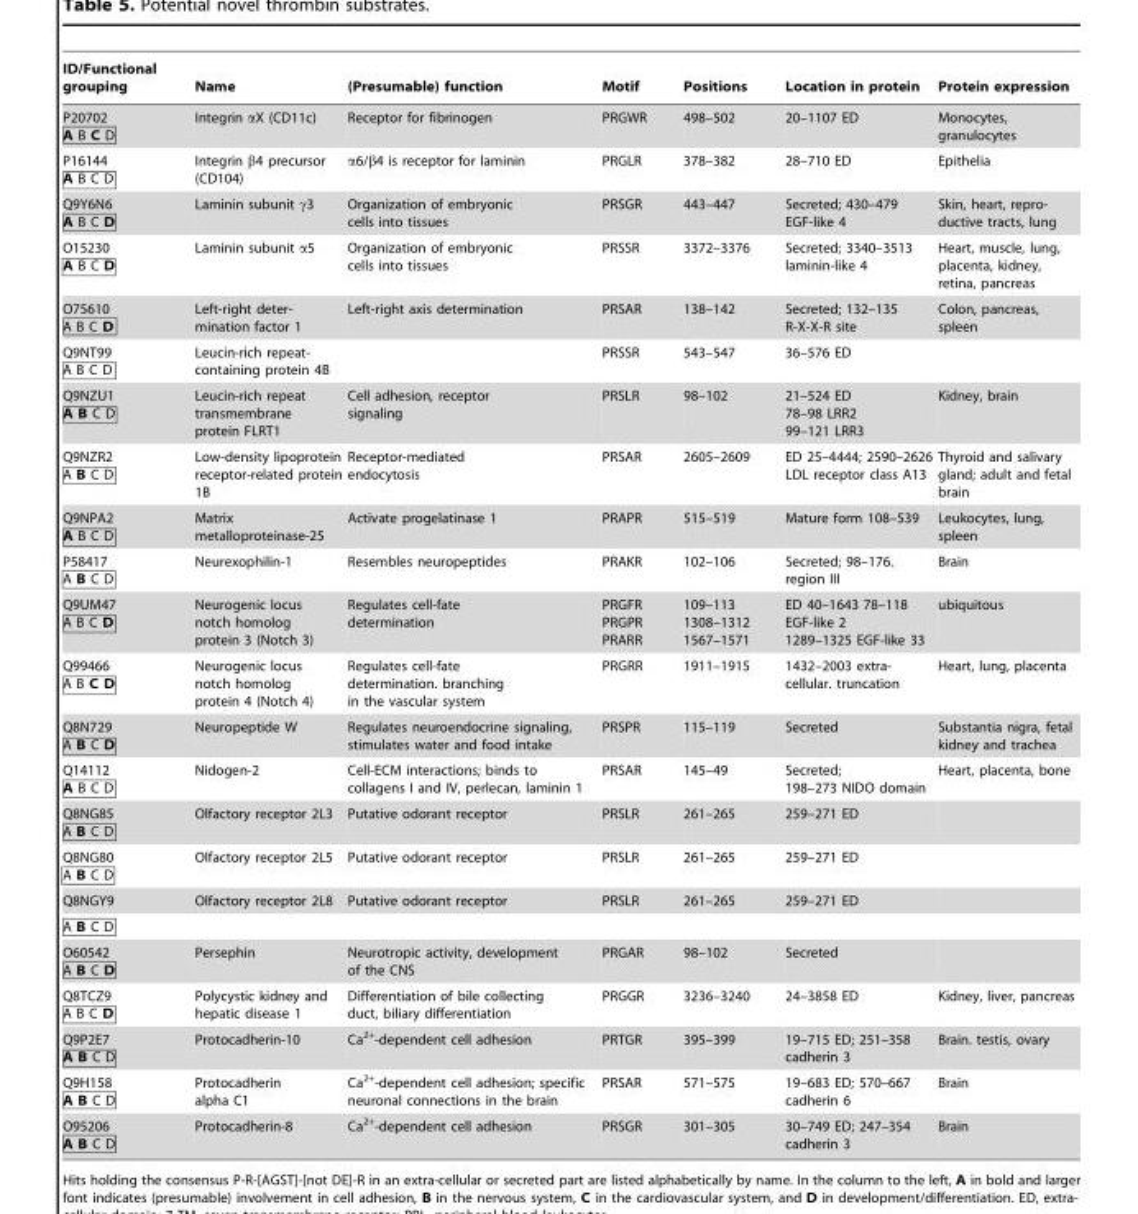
<table><thead><tr><td>ID/Functional grouping</td><td>Name</td><td>(Presumable) function</td><td>Motif</td><td>Positions</td><td>Location in protein</td><td>Protein expression</td></tr></thead><tbody><tr><td>P20702 A B C D</td><td>Integrin αX (CD11c)</td><td>Receptor for fibrinogen</td><td>PRGWR</td><td>498–502</td><td>20–1107 ED</td><td>Monocytes, granulocytes</td></tr><tr><td>P16144 A B C D</td><td>Integrin β4 precursor (CD104)</td><td>α6/β4 is receptor for laminin</td><td>PRGLR</td><td>378–382</td><td>28–710 ED</td><td>Epithelia</td></tr><tr><td>Q9Y6N6 A B C D</td><td>Laminin subunit γ3</td><td>Organization of embryonic cells into tissues</td><td>PRSGR</td><td>443–447</td><td>Secreted; 430–479 EGF-like 4</td><td>Skin, heart, repro- ductive tracts, lung</td></tr><tr><td>O15230 A B C D</td><td>Laminin subunit α5</td><td>Organization of embryonic cells into tissues</td><td>PRSSR</td><td>3372–3376</td><td>Secreted; 3340–3513 laminin-like 4</td><td>Heart, muscle, lung, placenta, kidney, retina, pancreas</td></tr><tr><td>O75610 A B C D</td><td>Left-right deter- mination factor 1</td><td>Left-right axis determination</td><td>PRSAR</td><td>138–142</td><td>Secreted; 132–135 R-X-X-R site</td><td>Colon, pancreas, spleen</td></tr><tr><td>Q9NT99 A B C D</td><td>Leucin-rich repeat- containing protein 4B</td><td></td><td>PRSSR</td><td>543–547</td><td>36–576 ED</td><td></td></tr><tr><td>Q9NZU1 A B C D</td><td>Leucin-rich repeat transmembrane protein FLRT1</td><td>Cell adhesion, receptor signaling</td><td>PRSLR</td><td>98–102</td><td>21–524 ED 78–98 LRR2 99–121 LRR3</td><td>Kidney, brain</td></tr><tr><td>Q9NZR2 A B C D</td><td>Low-density lipoprotein receptor-related protein 1B</td><td>Receptor-mediated endocytosis</td><td>PRSAR</td><td>2605–2609</td><td>ED 25–4444; 2590–2626 LDL receptor class A13</td><td>Thyroid and salivary gland; adult and fetal brain</td></tr><tr><td>Q9NPA2 A B C D</td><td>Matrix metalloproteinase-25</td><td>Activate progelatinase 1</td><td>PRAPR</td><td>515–519</td><td>Mature form 108–539</td><td>Leukocytes, lung, spleen</td></tr><tr><td>P58417 A B C D</td><td>Neurexophilin-1</td><td>Resembles neuropeptides</td><td>PRAKR</td><td>102–106</td><td>Secreted; 98–176. region III</td><td>Brain</td></tr><tr><td>Q9UM47 A B C D</td><td>Neurogenic locus notch homolog protein 3 (Notch 3)</td><td>Regulates cell-fate determination</td><td>PRGFR PRGPR PRARR</td><td>109–113 1308–1312 1567–1571</td><td>ED 40–1643 78–118 EGF-like 2 1289–1325 EGF-like 33</td><td>ubiquitous</td></tr><tr><td>Q99466 A B C D</td><td>Neurogenic locus notch homolog protein 4 (Notch 4)</td><td>Regulates cell-fate determination. branching in the vascular system</td><td>PRGRR</td><td>1911–1915</td><td>1432–2003 extra- cellular. truncation</td><td>Heart, lung, placenta</td></tr><tr><td>Q8N729 A B C D</td><td>Neuropeptide W</td><td>Regulates neuroendocrine signaling, stimulates water and food intake</td><td>PRSPR</td><td>115–119</td><td>Secreted</td><td>Substantia nigra, fetal kidney and trachea</td></tr><tr><td>Q14112 A B C D</td><td>Nidogen-2</td><td>Cell-ECM interactions; binds to collagens I and IV, perlecan, laminin 1</td><td>PRSAR</td><td>145–49</td><td>Secreted; 198–273 NIDO domain</td><td>Heart, placenta, bone</td></tr><tr><td>Q8NG85 A B C D</td><td>Olfactory receptor 2L3</td><td>Putative odorant receptor</td><td>PRSLR</td><td>261–265</td><td>259–271 ED</td><td></td></tr><tr><td>Q8NG80 A B C D</td><td>Olfactory receptor 2L5</td><td>Putative odorant receptor</td><td>PRSLR</td><td>261–265</td><td>259–271 ED</td><td></td></tr><tr><td>Q8NGY9</td><td>Olfactory receptor 2L8</td><td>Putative odorant receptor</td><td>PRSLR</td><td>261–265</td><td>259–271 ED</td><td></td></tr><tr><td colspan="7">A B C D</td></tr><tr><td>O60542 A B C D</td><td>Persephin</td><td>Neurotropic activity, development of the CNS</td><td>PRGAR</td><td>98–102</td><td>Secreted</td><td></td></tr><tr><td>Q8TCZ9 A B C D</td><td>Polycystic kidney and hepatic disease 1</td><td>Differentiation of bile collecting duct, biliary differentiation</td><td>PRGGR</td><td>3236–3240</td><td>24–3858 ED</td><td>Kidney, liver, pancreas</td></tr><tr><td>Q9P2E7 A B C D</td><td>Protocadherin-10</td><td>Ca<sup>2+</sup>-dependent cell adhesion</td><td>PRTGR</td><td>395–399</td><td>19–715 ED; 251–358 cadherin 3</td><td>Brain. testis, ovary</td></tr><tr><td>Q9H158 A B C D</td><td>Protocadherin alpha C1</td><td>Ca<sup>2+</sup>-dependent cell adhesion; specific neuronal connections in the brain</td><td>PRSAR</td><td>571–575</td><td>19–683 ED; 570–667 cadherin 6</td><td>Brain</td></tr><tr><td>O95206 A B C D</td><td>Protocadherin-8</td><td>Ca<sup>2+</sup>-dependent cell adhesion</td><td>PRSGR</td><td>301–305</td><td>30–749 ED; 247–354 cadherin 3</td><td>Brain</td></tr></tbody></table>